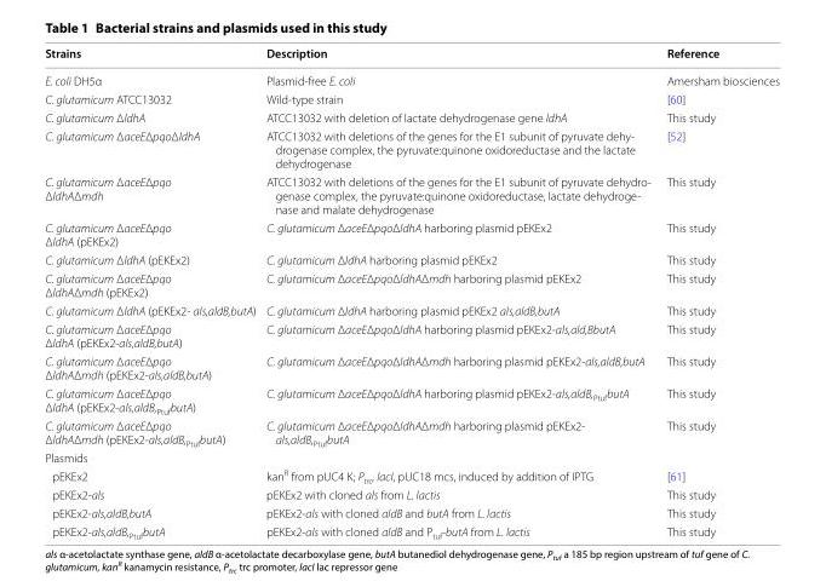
<table><thead><tr><td>Strains</td><td>Description</td><td>Reference</td></tr></thead><tbody><tr><td>E. coli DH5α</td><td>Plasmid-free E. coli</td><td>Amersham biosciences</td></tr><tr><td>C. glutamicum ATCC13032</td><td>Wild-type strain</td><td>[60]</td></tr><tr><td>C. glutamicum ΔldhA</td><td>ATCC13032 with deletion of lactate dehydrogenase gene ldhA</td><td>This study</td></tr><tr><td>C. glutamicum ΔaceEΔpqoΔldhA</td><td>ATCC13032 with deletions of the genes for the E1 subunit of pyruvate dehy- drogenase complex, the pyruvate:quinone oxidoreductase and the lactate dehydrogenase</td><td>[52]</td></tr><tr><td>C. glutamicum ΔaceEΔpqo ΔldhAΔmdh</td><td>ATCC13032 with deletions of the genes for the E1 subunit of pyruvate dehydro- genase complex, the pyruvate:quinone oxidoreductase, lactate dehydroge- nase and malate dehydrogenase</td><td>This study</td></tr><tr><td>C. glutamicum ΔaceEΔpqo ΔldhA (pEKEx2)</td><td>C. glutamicum ΔaceEΔpqoΔldhA harboring plasmid pEKEx2</td><td>This study</td></tr><tr><td>C. glutamicum ΔldhA (pEKEx2)</td><td>C. glutamicum ΔldhA harboring plasmid pEKEx2</td><td>This study</td></tr><tr><td>C. glutamicum ΔaceEΔpqo ΔldhAΔmdh (pEKEx2)</td><td>C. glutamicum ΔaceEΔpqoΔldhAΔmdh harboring plasmid pEKEx2</td><td>This study</td></tr><tr><td>C. glutamicum ΔldhA (pEKEx2- als,aldB,butA)</td><td>C. glutamicum ΔldhA harboring plasmid pEKEx2 als,aldB,butA</td><td>This study</td></tr><tr><td>C. glutamicum ΔaceEΔpqo ΔldhA (pEKEx2-als,aldB,butA)</td><td>C. glutamicum ΔaceEΔpqoΔldhA harboring plasmid pEKEx2-als,ald,BbutA</td><td>This study</td></tr><tr><td>C. glutamicum ΔaceEΔpqo ΔldhAΔmdh (pEKEx2-als,aldB,butA)</td><td>C. glutamicum ΔaceEΔpqoΔldhAΔmdh harboring plasmid pEKEx2-als,aldB,butA</td><td>This study</td></tr><tr><td>C. glutamicum ΔaceEΔpqo ΔldhA (pEKEx2-als,aldB,<sub>Ptuf</sub>butA)</td><td>C. glutamicum ΔaceEΔpqoΔldhA harboring plasmid pEKEx2-als,aldB,<sub>Ptuf</sub>butA</td><td>This study</td></tr><tr><td>C. glutamicum ΔaceEΔpqo ΔldhAΔmdh (pEKEx2-als,aldB,<sub>Ptuf</sub>butA)</td><td>C. glutamicum ΔaceEΔpqoΔldhAΔmdh harboring plasmid pEKEx2- als,aldB,<sub>Ptuf</sub>butA</td><td>This study</td></tr><tr><td colspan="3">Plasmids</td></tr><tr><td>pEKEx2</td><td>kan<sup>R</sup> from pUC4 K; P<sub>trc</sub>, lacI, pUC18 mcs, induced by addition of IPTG</td><td>[61]</td></tr><tr><td>pEKEx2-als</td><td>pEKEx2 with cloned als from L. lactis</td><td>This study</td></tr><tr><td>pEKEx2-als,aldB,butA</td><td>pEKEx2-als with cloned aldB and butA from L. lactis</td><td>This study</td></tr><tr><td>pEKEx2-als,aldB,<sub>Ptuf</sub>butA</td><td>pEKEx2-als with cloned aldB and P<sub>tuf</sub>-butA from L. lactis</td><td>This study</td></tr></tbody></table>